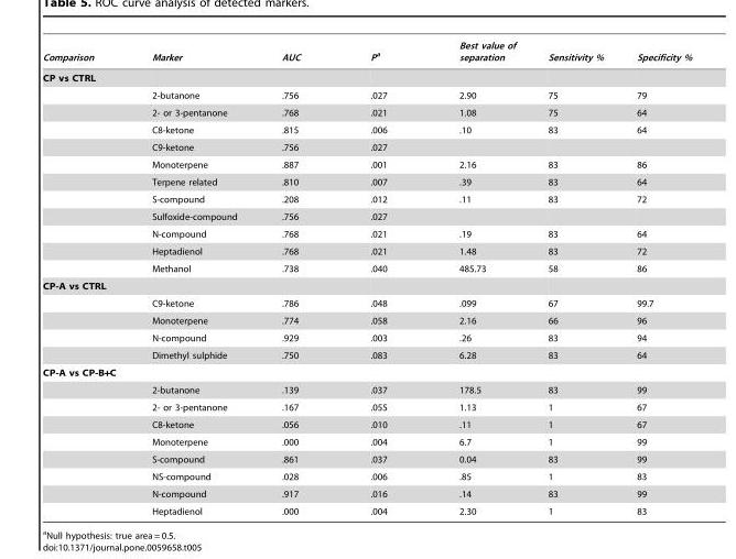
<table><thead><tr><td>Comparison</td><td>Marker</td><td>AUC</td><td>Pa</td><td>Best value of separation</td><td>Sensitivity %</td><td>Specificity %</td></tr></thead><tbody><tr><td colspan="7">CP vs CTRL</td></tr><tr><td></td><td>2-butanone</td><td>.756</td><td>.027</td><td>2.90</td><td>75</td><td>79</td></tr><tr><td></td><td>2- or 3-pentanone</td><td>.768</td><td>.021</td><td>1.08</td><td>75</td><td>64</td></tr><tr><td></td><td>C8-ketone</td><td>.815</td><td>.006</td><td>.10</td><td>83</td><td>64</td></tr><tr><td></td><td>C9-ketone</td><td>.756</td><td>.027</td><td></td><td></td><td></td></tr><tr><td></td><td>Monoterpene</td><td>.887</td><td>.001</td><td>2.16</td><td>83</td><td>86</td></tr><tr><td></td><td>Terpene related</td><td>.810</td><td>.007</td><td>.39</td><td>83</td><td>64</td></tr><tr><td></td><td>S-compound</td><td>.208</td><td>.012</td><td>.11</td><td>83</td><td>72</td></tr><tr><td></td><td>Sulfoxide-compound</td><td>.756</td><td>.027</td><td></td><td></td><td></td></tr><tr><td></td><td>N-compound</td><td>.768</td><td>.021</td><td>.19</td><td>83</td><td>64</td></tr><tr><td></td><td>Heptadienol</td><td>.768</td><td>.021</td><td>1.48</td><td>83</td><td>72</td></tr><tr><td></td><td>Methanol</td><td>.738</td><td>.040</td><td>485.73</td><td>58</td><td>86</td></tr><tr><td colspan="7">CP-A vs CTRL</td></tr><tr><td></td><td>C9-ketone</td><td>.786</td><td>.048</td><td>.099</td><td>67</td><td>99.7</td></tr><tr><td></td><td>Monoterpene</td><td>.774</td><td>.058</td><td>2.16</td><td>66</td><td>96</td></tr><tr><td></td><td>N-compound</td><td>.929</td><td>.003</td><td>.26</td><td>83</td><td>94</td></tr><tr><td></td><td>Dimethyl sulphide</td><td>.750</td><td>.083</td><td>6.28</td><td>83</td><td>64</td></tr><tr><td colspan="7">CP-A vs CP-B+C</td></tr><tr><td></td><td>2-butanone</td><td>.139</td><td>.037</td><td>178.5</td><td>83</td><td>99</td></tr><tr><td></td><td>2- or 3-pentanone</td><td>.167</td><td>.055</td><td>1.13</td><td>1</td><td>67</td></tr><tr><td></td><td>C8-ketone</td><td>.056</td><td>.010</td><td>.11</td><td>1</td><td>67</td></tr><tr><td></td><td>Monoterpene</td><td>.000</td><td>.004</td><td>6.7</td><td>1</td><td>99</td></tr><tr><td></td><td>S-compound</td><td>.861</td><td>.037</td><td>0.04</td><td>83</td><td>99</td></tr><tr><td></td><td>NS-compound</td><td>.028</td><td>.006</td><td>.85</td><td>1</td><td>83</td></tr><tr><td></td><td>N-compound</td><td>.917</td><td>.016</td><td>.14</td><td>83</td><td>99</td></tr><tr><td></td><td>Heptadienol</td><td>.000</td><td>.004</td><td>2.30</td><td>1</td><td>83</td></tr></tbody></table>